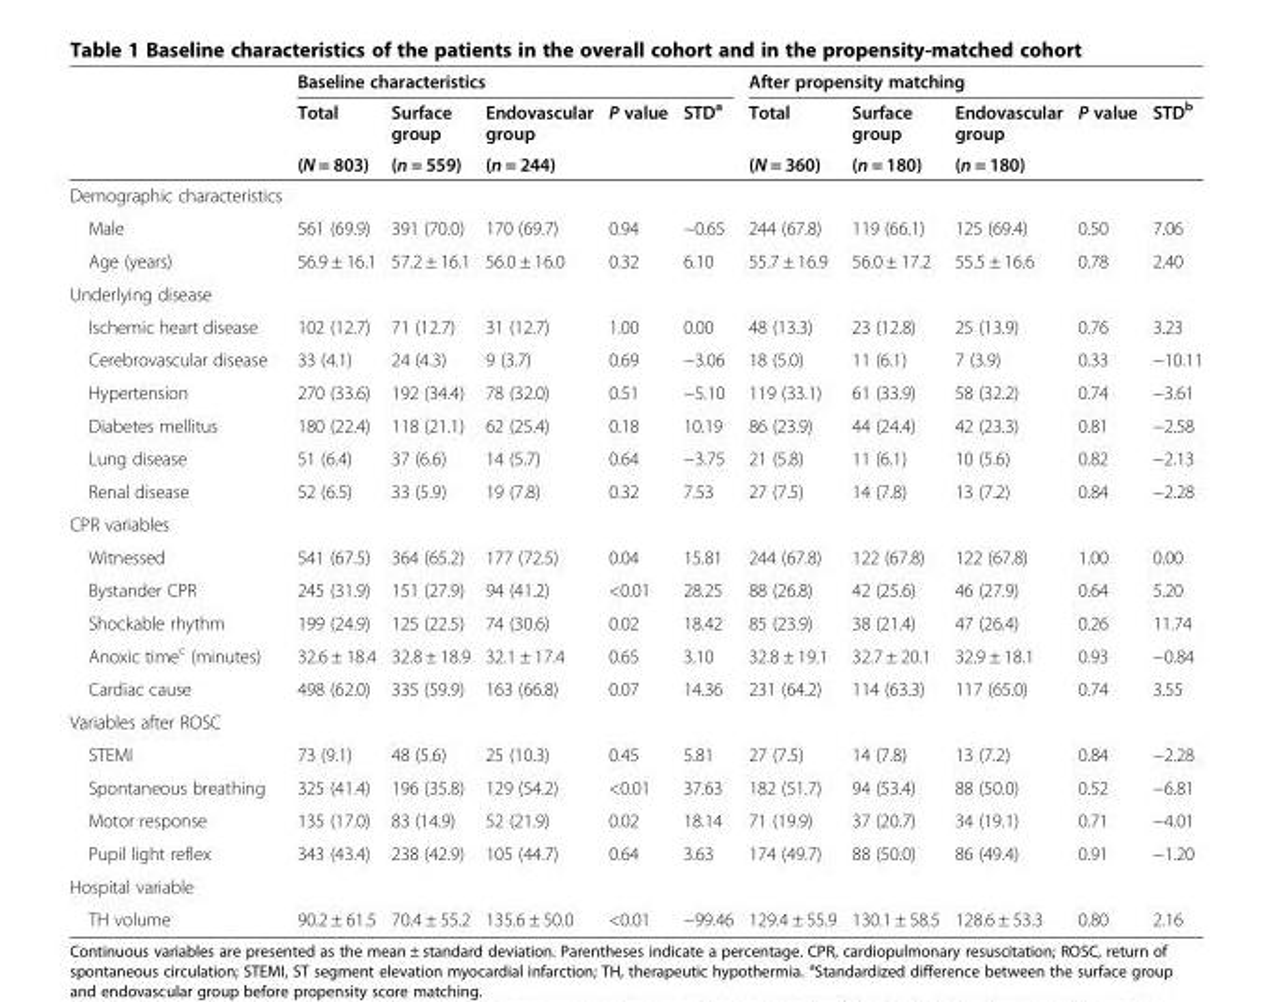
<table><thead><tr><td rowspan="3"></td><td colspan="5">Baseline characteristics</td><td colspan="5">After propensity matching</td></tr><tr><td rowspan="2">Total (N = 803)</td><td rowspan="2">Surface group (n = 559)</td><td rowspan="2">Endovascular group (n = 244)</td><td rowspan="2">P value</td><td rowspan="2">STD<sup>a</sup></td><td rowspan="2">Total (N = 360)</td><td rowspan="2">Surface group (n = 180)</td><td rowspan="2">Endovascular group (n = 180)</td><td rowspan="2">P value</td><td rowspan="2">STD<sup>b</sup></td></tr><tr></tr></thead><tbody><tr><td colspan="11">Demographic characteristics</td></tr><tr><td>Male</td><td>561 (69.9)</td><td>391 (70.0)</td><td>170 (69.7)</td><td>0.94</td><td>−0.65</td><td>244 (67.8)</td><td>119 (66.1)</td><td>125 (69.4)</td><td>0.50</td><td>7.06</td></tr><tr><td>Age (years)</td><td>56.9 ± 16.1</td><td>57.2 ± 16.1</td><td>56.0 ± 16.0</td><td>0.32</td><td>6.10</td><td>55.7 ± 16.9</td><td>56.0 ± 17.2</td><td>55.5 ± 16.6</td><td>0.78</td><td>2.40</td></tr><tr><td colspan="11">Underlying disease</td></tr><tr><td>Ischemic heart disease</td><td>102 (12.7)</td><td>71 (12.7)</td><td>31 (12.7)</td><td>1.00</td><td>0.00</td><td>48 (13.3)</td><td>23 (12.8)</td><td>25 (13.9)</td><td>0.76</td><td>3.23</td></tr><tr><td>Cerebrovascular disease</td><td>33 (4.1)</td><td>24 (4.3)</td><td>9 (3.7)</td><td>0.69</td><td>−3.06</td><td>18 (5.0)</td><td>11 (6.1)</td><td>7 (3.9)</td><td>0.33</td><td>−10.11</td></tr><tr><td>Hypertension</td><td>270 (33.6)</td><td>192 (34.4)</td><td>78 (32.0)</td><td>0.51</td><td>−5.10</td><td>119 (33.1)</td><td>61 (33.9)</td><td>58 (32.2)</td><td>0.74</td><td>−3.61</td></tr><tr><td>Diabetes mellitus</td><td>180 (22.4)</td><td>118 (21.1)</td><td>62 (25.4)</td><td>0.18</td><td>10.19</td><td>86 (23.9)</td><td>44 (24.4)</td><td>42 (23.3)</td><td>0.81</td><td>−2.58</td></tr><tr><td>Lung disease</td><td>51 (6.4)</td><td>37 (6.6)</td><td>14 (5.7)</td><td>0.64</td><td>−3.75</td><td>21 (5.8)</td><td>11 (6.1)</td><td>10 (5.6)</td><td>0.82</td><td>−2.13</td></tr><tr><td>Renal disease</td><td>52 (6.5)</td><td>33 (5.9)</td><td>19 (7.8)</td><td>0.32</td><td>7.53</td><td>27 (7.5)</td><td>14 (7.8)</td><td>13 (7.2)</td><td>0.84</td><td>−2.28</td></tr><tr><td colspan="11">CPR variables</td></tr><tr><td>Witnessed</td><td>541 (67.5)</td><td>364 (65.2)</td><td>177 (72.5)</td><td>0.04</td><td>15.81</td><td>244 (67.8)</td><td>122 (67.8)</td><td>122 (67.8)</td><td>1.00</td><td>0.00</td></tr><tr><td>Bystander CPR</td><td>245 (31.9)</td><td>151 (27.9)</td><td>94 (41.2)</td><td>&lt;0.01</td><td>28.25</td><td>88 (26.8)</td><td>42 (25.6)</td><td>46 (27.9)</td><td>0.64</td><td>5.20</td></tr><tr><td>Shockable rhythm</td><td>199 (24.9)</td><td>125 (22.5)</td><td>74 (30.6)</td><td>0.02</td><td>18.42</td><td>85 (23.9)</td><td>38 (21.4)</td><td>47 (26.4)</td><td>0.26</td><td>11.74</td></tr><tr><td>Anoxic time<sup>c</sup> (minutes)</td><td>32.6 ± 18.4</td><td>32.8 ± 18.9</td><td>32.1 ± 17.4</td><td>0.65</td><td>3.10</td><td>32.8 ± 19.1</td><td>32.7 ± 20.1</td><td>32.9 ± 18.1</td><td>0.93</td><td>−0.84</td></tr><tr><td>Cardiac cause</td><td>498 (62.0)</td><td>335 (59.9)</td><td>163 (66.8)</td><td>0.07</td><td>14.36</td><td>231 (64.2)</td><td>114 (63.3)</td><td>117 (65.0)</td><td>0.74</td><td>3.55</td></tr><tr><td colspan="11">Variables after ROSC</td></tr><tr><td>STEMI</td><td>73 (9.1)</td><td>48 (5.6)</td><td>25 (10.3)</td><td>0.45</td><td>5.81</td><td>27 (7.5)</td><td>14 (7.8)</td><td>13 (7.2)</td><td>0.84</td><td>−2.28</td></tr><tr><td>Spontaneous breathing</td><td>325 (41.4)</td><td>196 (35.8)</td><td>129 (54.2)</td><td>&lt;0.01</td><td>37.63</td><td>182 (51.7)</td><td>94 (53.4)</td><td>88 (50.0)</td><td>0.52</td><td>−6.81</td></tr><tr><td>Motor response</td><td>135 (17.0)</td><td>83 (14.9)</td><td>52 (21.9)</td><td>0.02</td><td>18.14</td><td>71 (19.9)</td><td>37 (20.7)</td><td>34 (19.1)</td><td>0.71</td><td>−4.01</td></tr><tr><td>Pupil light reflex</td><td>343 (43.4)</td><td>238 (42.9)</td><td>105 (44.7)</td><td>0.64</td><td>3.63</td><td>174 (49.7)</td><td>88 (50.0)</td><td>86 (49.4)</td><td>0.91</td><td>−1.20</td></tr><tr><td colspan="11">Hospital variable</td></tr><tr><td>TH volume</td><td>90.2 ± 61.5</td><td>70.4 ± 55.2</td><td>135.6 ± 50.0</td><td>&lt;0.01</td><td>−99.46</td><td>129.4 ± 55.9</td><td>130.1 ± 58.5</td><td>128.6 ± 53.3</td><td>0.80</td><td>2.16</td></tr></tbody></table>